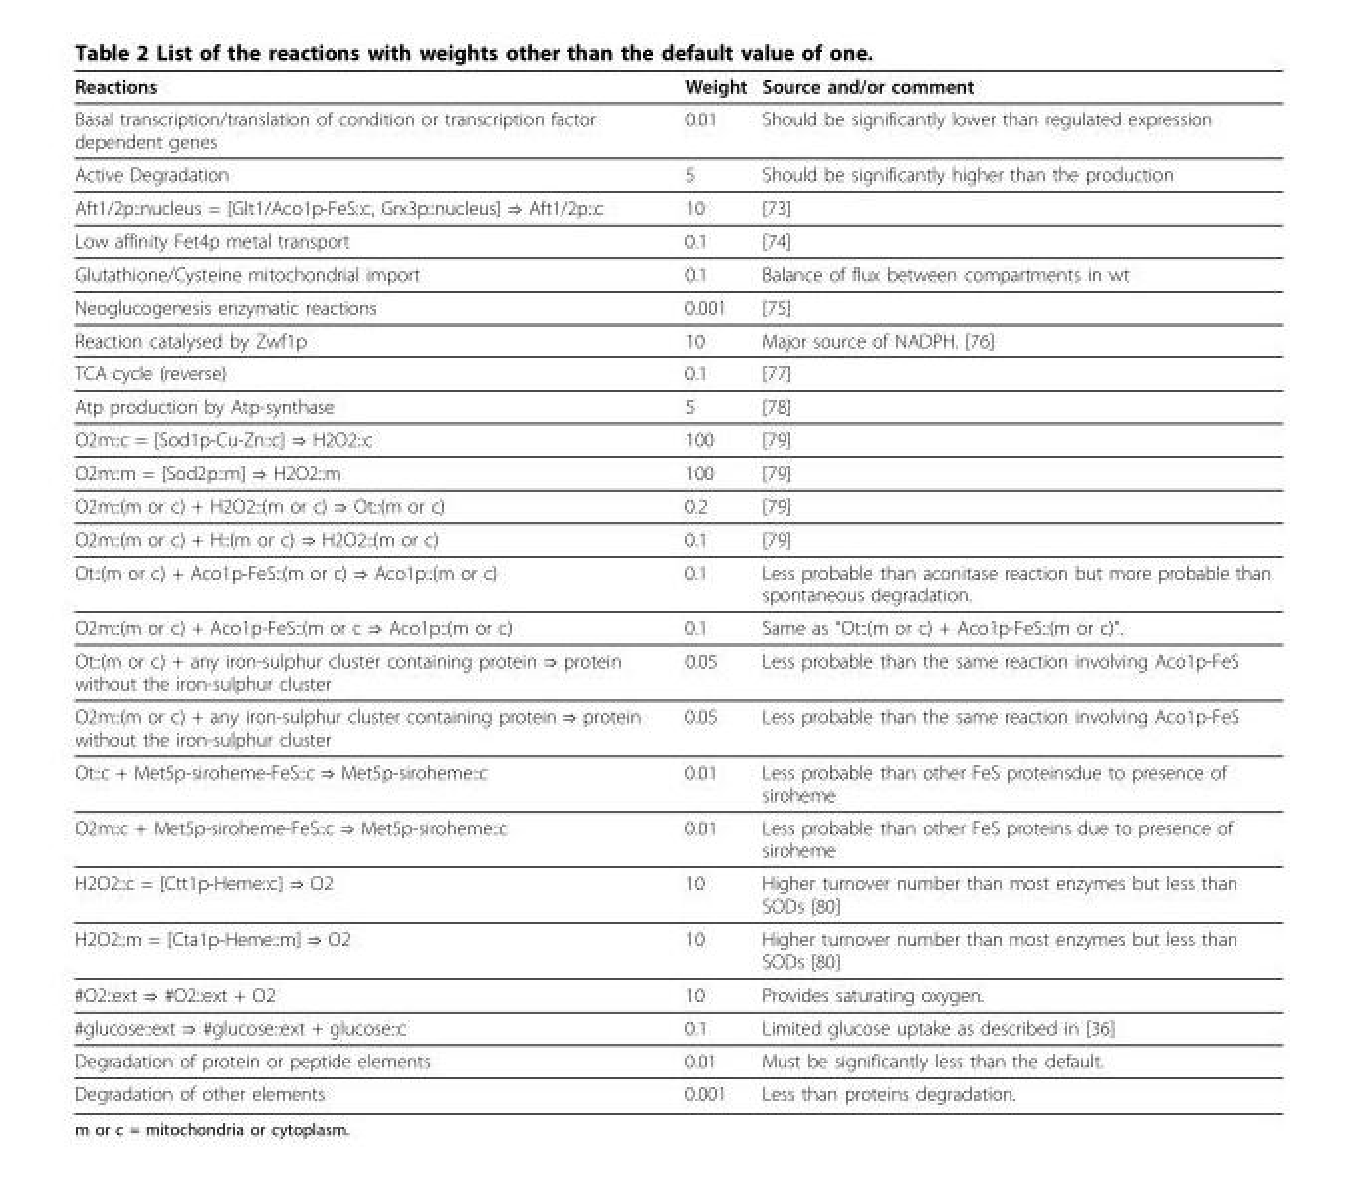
<table><thead><tr><td>Reactions</td><td>Weight</td><td>Source and/or comment</td></tr></thead><tbody><tr><td>Basal transcription/translation of condition or transcription factor dependent genes</td><td>0.01</td><td>Should be significantly lower than regulated expression</td></tr><tr><td>Active Degradation</td><td>5</td><td>Should be significantly higher than the production</td></tr><tr><td>Aft1/2p::nucleus = [Glt1/Aco1p-FeS::c, Grx3p::nucleus] ⇒ Aft1/2p::c</td><td>10</td><td>[73]</td></tr><tr><td>Low affinity Fet4p metal transport</td><td>0.1</td><td>[74]</td></tr><tr><td>Glutathione/Cysteine mitochondrial import</td><td>0.1</td><td>Balance of flux between compartments in wt</td></tr><tr><td>Neoglucogenesis enzymatic reactions</td><td>0.001</td><td>[75]</td></tr><tr><td>Reaction catalysed by Zwf1p</td><td>10</td><td>Major source of NADPH. [76]</td></tr><tr><td>TCA cycle (reverse)</td><td>0.1</td><td>[77]</td></tr><tr><td>Atp production by Atp-synthase</td><td>5</td><td>[78]</td></tr><tr><td>O2m::c = [Sod1p-Cu-Zn::c] ⇒ H2O2::c</td><td>100</td><td>[79]</td></tr><tr><td>O2m::m = [Sod2p::m] ⇒ H2O2::m</td><td>100</td><td>[79]</td></tr><tr><td>O2m::(m or c) + H2O2::(m or c) ⇒ Ot::(m or c)</td><td>0.2</td><td>[79]</td></tr><tr><td>O2m::(m or c) + H::(m or c) ⇒ H2O2::(m or c)</td><td>0.1</td><td>[79]</td></tr><tr><td>Ot::(m or c) + Aco1p-FeS::(m or c) ⇒ Aco1p::(m or c)</td><td>0.1</td><td>Less probable than aconitase reaction but more probable than spontaneous degradation.</td></tr><tr><td>O2m::(m or c) + Aco1p-FeS::(m or c ⇒ Aco1p::(m or c)</td><td>0.1</td><td>Same as “Ot::(m or c) + Aco1p-FeS::(m or c)”.</td></tr><tr><td>Ot::(m or c) + any iron-sulphur cluster containing protein ⇒ protein without the iron-sulphur cluster</td><td>0.05</td><td>Less probable than the same reaction involving Aco1p-FeS</td></tr><tr><td>O2m::(m or c) + any iron-sulphur cluster containing protein ⇒ protein without the iron-sulphur cluster</td><td>0.05</td><td>Less probable than the same reaction involving Aco1p-FeS</td></tr><tr><td>Ot::c + Met5p-siroheme-FeS::c ⇒ Met5p-siroheme::c</td><td>0.01</td><td>Less probable than other FeS proteinsdue to presence of siroheme</td></tr><tr><td>O2m::c + Met5p-siroheme-FeS::c ⇒ Met5p-siroheme::c</td><td>0.01</td><td>Less probable than other FeS proteins due to presence of siroheme</td></tr><tr><td>H2O2::c = [Ctt1p-Heme::c] ⇒ O2</td><td>10</td><td>Higher turnover number than most enzymes but less than SODs [80]</td></tr><tr><td>H2O2::m = [Cta1p-Heme::m] ⇒ O2</td><td>10</td><td>Higher turnover number than most enzymes but less than SODs [80]</td></tr><tr><td>#O2::ext ⇒ #O2::ext + O2</td><td>10</td><td>Provides saturating oxygen.</td></tr><tr><td>#glucose::ext ⇒ #glucose::ext + glucose::c</td><td>0.1</td><td>Limited glucose uptake as described in [36]</td></tr><tr><td>Degradation of protein or peptide elements</td><td>0.01</td><td>Must be significantly less than the default.</td></tr><tr><td>Degradation of other elements</td><td>0.001</td><td>Less than proteins degradation.</td></tr></tbody></table>